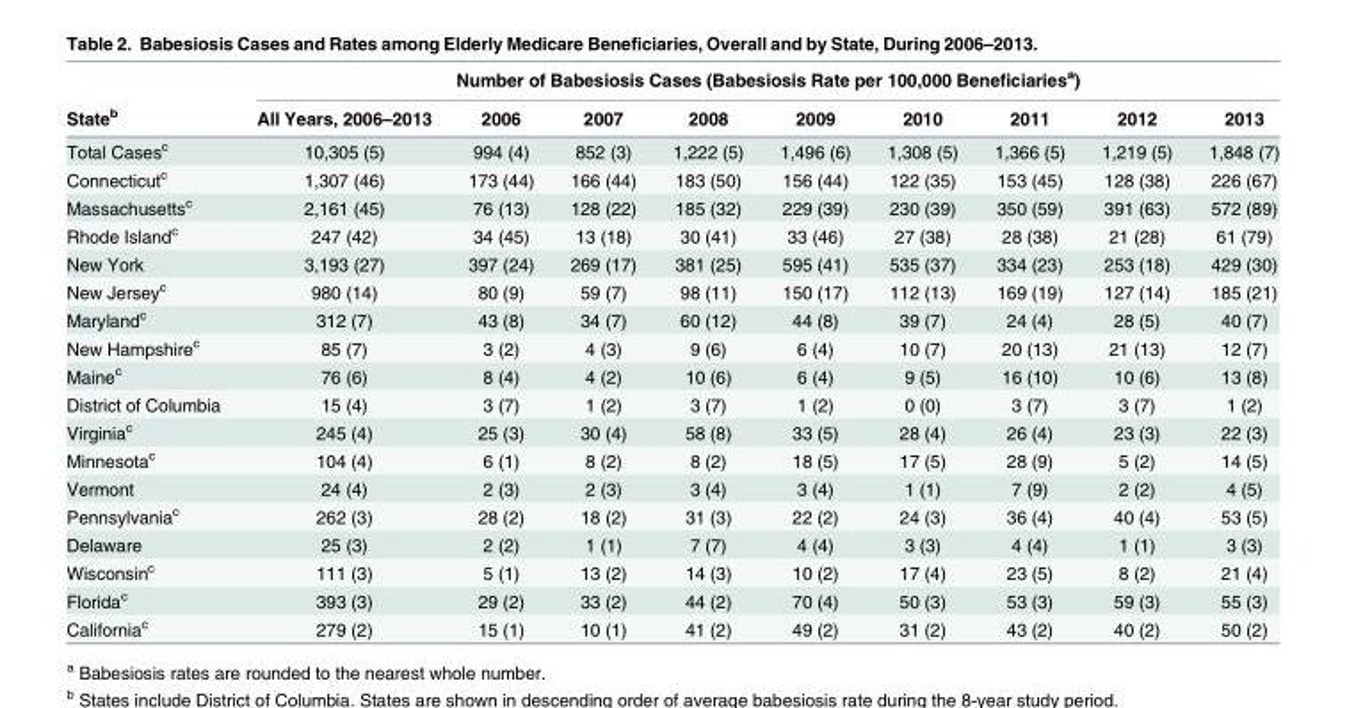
<table><thead><tr><td rowspan="2">State<sup>b</sup></td><td colspan="9">Number of Babesiosis Cases (Babesiosis Rate per 100,000 Beneficiaries<sup>a</sup>)</td></tr><tr><td>All Years, 2006–2013</td><td>2006</td><td>2007</td><td>2008</td><td>2009</td><td>2010</td><td>2011</td><td>2012</td><td>2013</td></tr></thead><tbody><tr><td>Total Cases<sup>c</sup></td><td>10,305 (5)</td><td>994 (4)</td><td>852 (3)</td><td>1,222 (5)</td><td>1,496 (6)</td><td>1,308 (5)</td><td>1,366 (5)</td><td>1,219 (5)</td><td>1,848 (7)</td></tr><tr><td>Connecticut<sup>c</sup></td><td>1,307 (46)</td><td>173 (44)</td><td>166 (44)</td><td>183 (50)</td><td>156 (44)</td><td>122 (35)</td><td>153 (45)</td><td>128 (38)</td><td>226 (67)</td></tr><tr><td>Massachusetts<sup>c</sup></td><td>2,161 (45)</td><td>76 (13)</td><td>128 (22)</td><td>185 (32)</td><td>229 (39)</td><td>230 (39)</td><td>350 (59)</td><td>391 (63)</td><td>572 (89)</td></tr><tr><td>Rhode Island<sup>c</sup></td><td>247 (42)</td><td>34 (45)</td><td>13 (18)</td><td>30 (41)</td><td>33 (46)</td><td>27 (38)</td><td>28 (38)</td><td>21 (28)</td><td>61 (79)</td></tr><tr><td>New York</td><td>3,193 (27)</td><td>397 (24)</td><td>269 (17)</td><td>381 (25)</td><td>595 (41)</td><td>535 (37)</td><td>334 (23)</td><td>253 (18)</td><td>429 (30)</td></tr><tr><td>New Jersey<sup>c</sup></td><td>980 (14)</td><td>80 (9)</td><td>59 (7)</td><td>98 (11)</td><td>150 (17)</td><td>112 (13)</td><td>169 (19)</td><td>127 (14)</td><td>185 (21)</td></tr><tr><td>Maryland<sup>c</sup></td><td>312 (7)</td><td>43 (8)</td><td>34 (7)</td><td>60 (12)</td><td>44 (8)</td><td>39 (7)</td><td>24 (4)</td><td>28 (5)</td><td>40 (7)</td></tr><tr><td>New Hampshire<sup>c</sup></td><td>85 (7)</td><td>3 (2)</td><td>4 (3)</td><td>9 (6)</td><td>6 (4)</td><td>10 (7)</td><td>20 (13)</td><td>21 (13)</td><td>12 (7)</td></tr><tr><td>Maine<sup>c</sup></td><td>76 (6)</td><td>8 (4)</td><td>4 (2)</td><td>10 (6)</td><td>6 (4)</td><td>9 (5)</td><td>16 (10)</td><td>10 (6)</td><td>13 (8)</td></tr><tr><td>District of Columbia</td><td>15 (4)</td><td>3 (7)</td><td>1 (2)</td><td>3 (7)</td><td>1 (2)</td><td>0 (0)</td><td>3 (7)</td><td>3 (7)</td><td>1 (2)</td></tr><tr><td>Virginia<sup>c</sup></td><td>245 (4)</td><td>25 (3)</td><td>30 (4)</td><td>58 (8)</td><td>33 (5)</td><td>28 (4)</td><td>26 (4)</td><td>23 (3)</td><td>22 (3)</td></tr><tr><td>Minnesota<sup>c</sup></td><td>104 (4)</td><td>6 (1)</td><td>8 (2)</td><td>8 (2)</td><td>18 (5)</td><td>17 (5)</td><td>28 (9)</td><td>5 (2)</td><td>14 (5)</td></tr><tr><td>Vermont</td><td>24 (4)</td><td>2 (3)</td><td>2 (3)</td><td>3 (4)</td><td>3 (4)</td><td>1 (1)</td><td>7 (9)</td><td>2 (2)</td><td>4 (5)</td></tr><tr><td>Pennsylvania<sup>c</sup></td><td>262 (3)</td><td>28 (2)</td><td>18 (2)</td><td>31 (3)</td><td>22 (2)</td><td>24 (3)</td><td>36 (4)</td><td>40 (4)</td><td>53 (5)</td></tr><tr><td>Delaware</td><td>25 (3)</td><td>2 (2)</td><td>1 (1)</td><td>7 (7)</td><td>4 (4)</td><td>3 (3)</td><td>4 (4)</td><td>1 (1)</td><td>3 (3)</td></tr><tr><td>Wisconsin<sup>c</sup></td><td>111 (3)</td><td>5 (1)</td><td>13 (2)</td><td>14 (3)</td><td>10 (2)</td><td>17 (4)</td><td>23 (5)</td><td>8 (2)</td><td>21 (4)</td></tr><tr><td>Florida<sup>c</sup></td><td>393 (3)</td><td>29 (2)</td><td>33 (2)</td><td>44 (2)</td><td>70 (4)</td><td>50 (3)</td><td>53 (3)</td><td>59 (3)</td><td>55 (3)</td></tr><tr><td>California<sup>c</sup></td><td>279 (2)</td><td>15 (1)</td><td>10 (1)</td><td>41 (2)</td><td>49 (2)</td><td>31 (2)</td><td>43 (2)</td><td>40 (2)</td><td>50 (2)</td></tr></tbody></table>